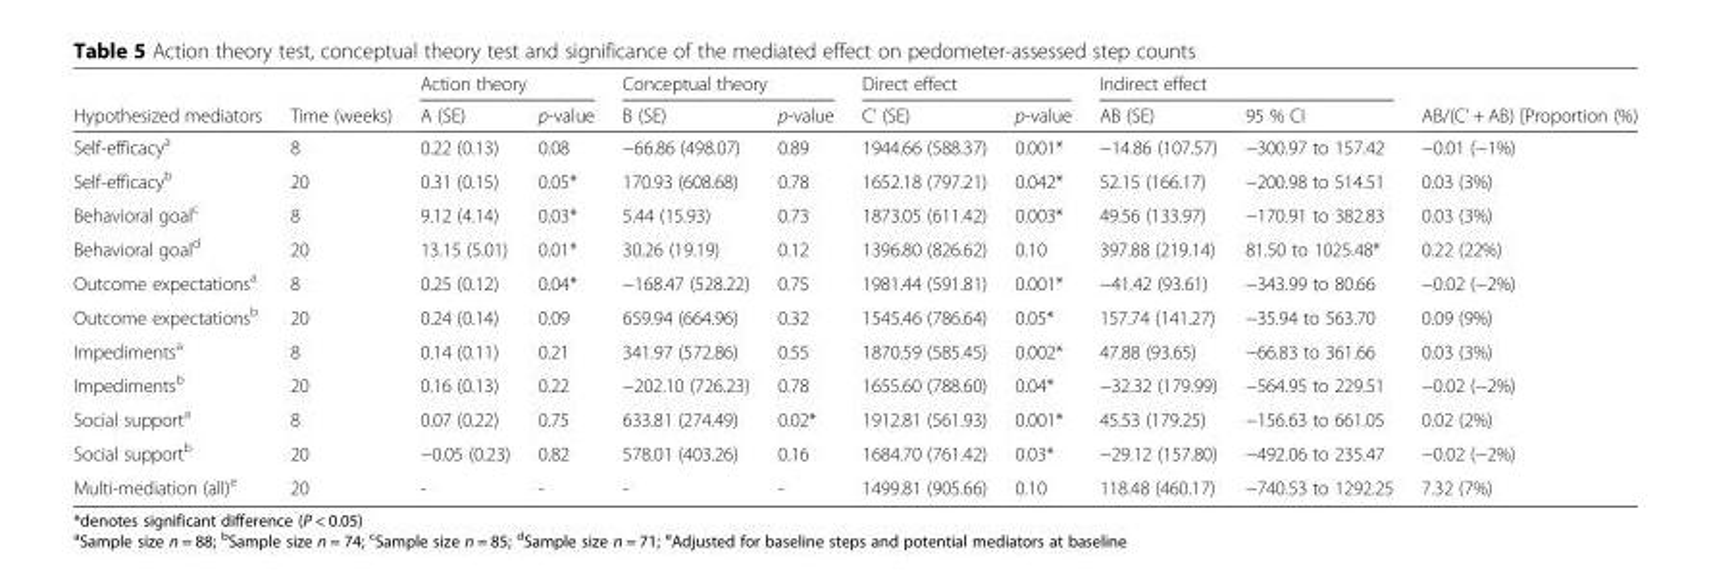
<table><thead><tr><td rowspan="2">Hypothesized mediators</td><td rowspan="2">Time (weeks)</td><td colspan="2">Action theory</td><td colspan="2">Conceptual theory</td><td colspan="2">Direct effect</td><td colspan="2">Indirect effect</td><td rowspan="2">AB/(C’ + AB) [Proportion (%)</td></tr><tr><td>A (SE)</td><td>p-value</td><td>B (SE)</td><td>p-value</td><td>C’ (SE)</td><td>p-value</td><td>AB (SE)</td><td>95 % CI</td></tr></thead><tbody><tr><td>Self-efficacy<sup>a</sup></td><td>8</td><td>0.22 (0.13)</td><td>0.08</td><td>−66.86 (498.07)</td><td>0.89</td><td>1944.66 (588.37)</td><td>0.001*</td><td>−14.86 (107.57)</td><td>−300.97 to 157.42</td><td>−0.01 (−1%)</td></tr><tr><td>Self-efficacy<sup>b</sup></td><td>20</td><td>0.31 (0.15)</td><td>0.05*</td><td>170.93 (608.68)</td><td>0.78</td><td>1652.18 (797.21)</td><td>0.042*</td><td>52.15 (166.17)</td><td>−200.98 to 514.51</td><td>0.03 (3%)</td></tr><tr><td>Behavioral goal<sup>c</sup></td><td>8</td><td>9.12 (4.14)</td><td>0.03*</td><td>5.44 (15.93)</td><td>0.73</td><td>1873.05 (611.42)</td><td>0.003*</td><td>49.56 (133.97)</td><td>−170.91 to 382.83</td><td>0.03 (3%)</td></tr><tr><td>Behavioral goal<sup>d</sup></td><td>20</td><td>13.15 (5.01)</td><td>0.01*</td><td>30.26 (19.19)</td><td>0.12</td><td>1396.80 (826.62)</td><td>0.10</td><td>397.88 (219.14)</td><td>81.50 to 1025.48*</td><td>0.22 (22%)</td></tr><tr><td>Outcome expectations<sup>a</sup></td><td>8</td><td>0.25 (0.12)</td><td>0.04*</td><td>−168.47 (528.22)</td><td>0.75</td><td>1981.44 (591.81)</td><td>0.001*</td><td>−41.42 (93.61)</td><td>−343.99 to 80.66</td><td>−0.02 (−2%)</td></tr><tr><td>Outcome expectations<sup>b</sup></td><td>20</td><td>0.24 (0.14)</td><td>0.09</td><td>659.94 (664.96)</td><td>0.32</td><td>1545.46 (786.64)</td><td>0.05*</td><td>157.74 (141.27)</td><td>−35.94 to 563.70</td><td>0.09 (9%)</td></tr><tr><td>Impediments<sup>a</sup></td><td>8</td><td>0.14 (0.11)</td><td>0.21</td><td>341.97 (572.86)</td><td>0.55</td><td>1870.59 (585.45)</td><td>0.002*</td><td>47.88 (93.65)</td><td>−66.83 to 361.66</td><td>0.03 (3%)</td></tr><tr><td>Impediments<sup>b</sup></td><td>20</td><td>0.16 (0.13)</td><td>0.22</td><td>−202.10 (726.23)</td><td>0.78</td><td>1655.60 (788.60)</td><td>0.04*</td><td>−32.32 (179.99)</td><td>−564.95 to 229.51</td><td>−0.02 (−2%)</td></tr><tr><td>Social support<sup>a</sup></td><td>8</td><td>0.07 (0.22)</td><td>0.75</td><td>633.81 (274.49)</td><td>0.02*</td><td>1912.81 (561.93)</td><td>0.001*</td><td>45.53 (179.25)</td><td>−156.63 to 661.05</td><td>0.02 (2%)</td></tr><tr><td>Social support<sup>b</sup></td><td>20</td><td>−0.05 (0.23)</td><td>0.82</td><td>578.01 (403.26)</td><td>0.16</td><td>1684.70 (761.42)</td><td>0.03*</td><td>−29.12 (157.80)</td><td>−492.06 to 235.47</td><td>−0.02 (−2%)</td></tr><tr><td>Multi-mediation (all)<sup>e</sup></td><td>20</td><td>-</td><td>-</td><td>-</td><td>-</td><td>1499.81 (905.66)</td><td>0.10</td><td>118.48 (460.17)</td><td>−740.53 to 1292.25</td><td>7.32 (7%)</td></tr></tbody></table>